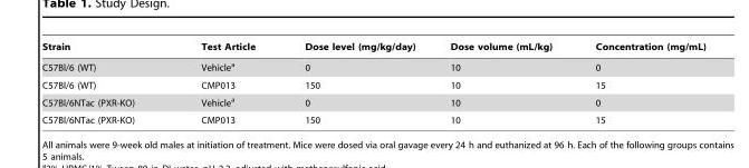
<table><thead><tr><td>Strain</td><td>Test Article</td><td>Dose level (mg/kg/day)</td><td>Dose volume (mL/kg)</td><td>Concentration (mg/mL)</td></tr></thead><tbody><tr><td>C57Bl/6 (WT)</td><td>Vehicle<sup>a</sup></td><td>0</td><td>10</td><td>0</td></tr><tr><td>C57Bl/6 (WT)</td><td>CMP013</td><td>150</td><td>10</td><td>15</td></tr><tr><td>C57Bl/6NTac (PXR-KO)</td><td>Vehicle<sup>a</sup></td><td>0</td><td>10</td><td>0</td></tr><tr><td>C57Bl/6NTac (PXR-KO)</td><td>CMP013</td><td>150</td><td>10</td><td>15</td></tr></tbody></table>